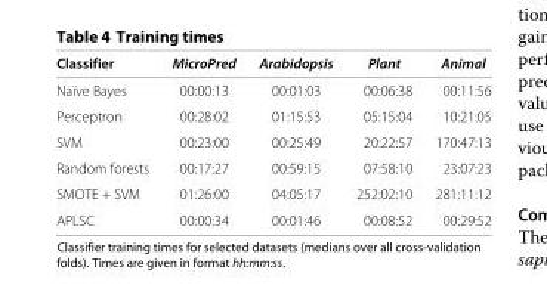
<table><thead><tr><td>Classifier</td><td>MicroPred</td><td>Arabidopsis</td><td>Plant</td><td>Animal</td></tr></thead><tbody><tr><td>Naïve Bayes</td><td>00:00:13</td><td>00:01:03</td><td>00:06:38</td><td>00:11:56</td></tr><tr><td>Perceptron</td><td>00:28:02</td><td>01:15:53</td><td>05:15:04</td><td>10:21:05</td></tr><tr><td>SVM</td><td>00:23:00</td><td>00:25:49</td><td>20:22:57</td><td>170:47:13</td></tr><tr><td>Random forests</td><td>00:17:27</td><td>00:59:15</td><td>07:58:10</td><td>23:07:23</td></tr><tr><td>SMOTE + SVM</td><td>01:26:00</td><td>04:05:17</td><td>252:02:10</td><td>281:11:12</td></tr><tr><td>APLSC</td><td>00:00:34</td><td>00:01:46</td><td>00:08:52</td><td>00:29:52</td></tr></tbody></table>